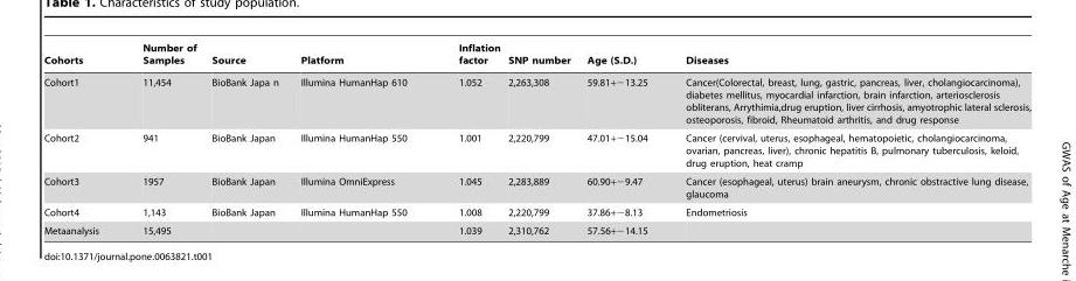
<table><thead><tr><td>Cohorts</td><td>Number of Samples</td><td>Source</td><td>Platform</td><td>Inflation factor</td><td>SNP number</td><td>Age (S.D.)</td><td>Diseases</td></tr></thead><tbody><tr><td>Cohort1</td><td>11,454</td><td>BioBank Japa n</td><td>Illumina HumanHap 610</td><td>1.052</td><td>2,263,308</td><td>59.81+−13.25</td><td>Cancer(Colorectal, breast, lung, gastric, pancreas, liver, cholangiocarcinoma), diabetes mellitus, myocardial infarction, brain infarction, arteriosclerosis obliterans, Arrythimia,drug eruption, liver cirrhosis, amyotrophic lateral sclerosis, osteoporosis, fibroid, Rheumatoid arthritis, and drug response</td></tr><tr><td>Cohort2</td><td>941</td><td>BioBank Japan</td><td>Illumina HumanHap 550</td><td>1.001</td><td>2,220,799</td><td>47.01+−15.04</td><td>Cancer (cervival, uterus, esophageal, hematopoietic, cholangiocarcinoma, ovarian, pancreas, liver), chronic hepatitis B, pulmonary tuberculosis, keloid, drug eruption, heat cramp</td></tr><tr><td>Cohort3</td><td>1957</td><td>BioBank Japan</td><td>Illumina OmniExpress</td><td>1.045</td><td>2,283,889</td><td>60.90+−9.47</td><td>Cancer (esophageal, uterus) brain aneurysm, chronic obstractive lung disease, glaucoma</td></tr><tr><td>Cohort4</td><td>1,143</td><td>BioBank Japan</td><td>Illumina HumanHap 550</td><td>1.008</td><td>2,220,799</td><td>37.86+−8.13</td><td>Endometriosis</td></tr><tr><td>Metaanalysis</td><td>15,495</td><td></td><td></td><td>1.039</td><td>2,310,762</td><td>57.56+−14.15</td><td></td></tr></tbody></table>